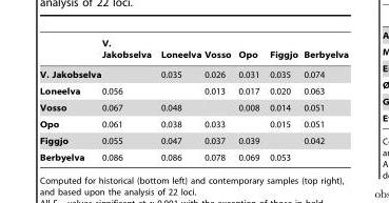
<table><thead><tr><td></td><td>V. Jakobselva</td><td>Loneelva</td><td>Vosso</td><td>Opo</td><td>Figgjo</td><td>Berbyelva</td></tr></thead><tbody><tr><td>V. Jakobselva</td><td></td><td>0.035</td><td>0.026</td><td>0.031</td><td>0.035</td><td>0.074</td></tr><tr><td>Loneelva</td><td>0.056</td><td></td><td>0.013</td><td>0.017</td><td>0.020</td><td>0.063</td></tr><tr><td>Vosso</td><td>0.067</td><td>0.048</td><td></td><td>0.008</td><td>0.014</td><td>0.051</td></tr><tr><td>Opo</td><td>0.061</td><td>0.038</td><td>0.033</td><td></td><td>0.015</td><td>0.051</td></tr><tr><td>Figgjo</td><td>0.055</td><td>0.047</td><td>0.037</td><td>0.039</td><td></td><td>0.042</td></tr><tr><td>Berbyelva</td><td>0.086</td><td>0.086</td><td>0.078</td><td>0.069</td><td>0.053</td><td></td></tr></tbody></table>